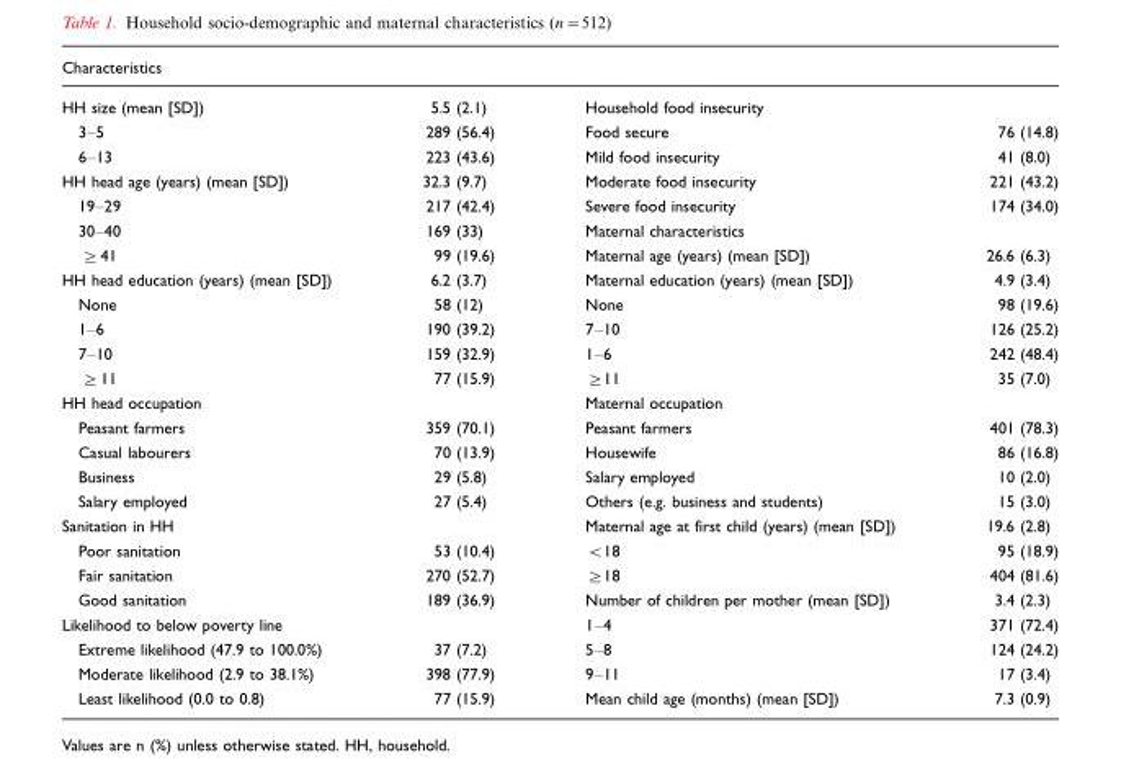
<table><thead><tr><td>Characteristics</td><td></td><td></td><td></td></tr></thead><tbody><tr><td>HH size (mean [SD])</td><td>5.5 (2.1)</td><td>Household food insecurity</td><td></td></tr><tr><td>3–5</td><td>289 (56.4)</td><td>Food secure</td><td>76 (14.8)</td></tr><tr><td>6–13</td><td>223 (43.6)</td><td>Mild food insecurity</td><td>41 (8.0)</td></tr><tr><td>HH head age (years) (mean [SD])</td><td>32.3 (9.7)</td><td>Moderate food insecurity</td><td>221 (43.2)</td></tr><tr><td>19–29</td><td>217 (42.4)</td><td>Severe food insecurity</td><td>174 (34.0)</td></tr><tr><td>30–40</td><td>169 (33)</td><td>Maternal characteristics</td><td></td></tr><tr><td>≥41</td><td>99 (19.6)</td><td>Maternal age (years) (mean [SD])</td><td>26.6 (6.3)</td></tr><tr><td>HH head education (years) (mean [SD])</td><td>6.2 (3.7)</td><td>Maternal education (years) (mean [SD])</td><td>4.9 (3.4)</td></tr><tr><td>None</td><td>58 (12)</td><td>None</td><td>98 (19.6)</td></tr><tr><td>1–6</td><td>190 (39.2)</td><td>7–10</td><td>126 (25.2)</td></tr><tr><td>7–10</td><td>159 (32.9)</td><td>1–6</td><td>242 (48.4)</td></tr><tr><td>≥11</td><td>77 (15.9)</td><td>≥11</td><td>35 (7.0)</td></tr><tr><td>HH head occupation</td><td></td><td>Maternal occupation</td><td></td></tr><tr><td>Peasant farmers</td><td>359 (70.1)</td><td>Peasant farmers</td><td>401 (78.3)</td></tr><tr><td>Casual labourers</td><td>70 (13.9)</td><td>Housewife</td><td>86 (16.8)</td></tr><tr><td>Business</td><td>29 (5.8)</td><td>Salary employed</td><td>10 (2.0)</td></tr><tr><td>Salary employed</td><td>27 (5.4)</td><td>Others (e.g. business and students)</td><td>15 (3.0)</td></tr><tr><td>Sanitation in HH</td><td></td><td>Maternal age at first child (years) (mean [SD])</td><td>19.6 (2.8)</td></tr><tr><td>Poor sanitation</td><td>53 (10.4)</td><td>&lt;18</td><td>95 (18.9)</td></tr><tr><td>Fair sanitation</td><td>270 (52.7)</td><td>≥18</td><td>404 (81.6)</td></tr><tr><td>Good sanitation</td><td>189 (36.9)</td><td>Number of children per mother (mean [SD])</td><td>3.4 (2.3)</td></tr><tr><td>Likelihood to below poverty line</td><td></td><td>1–4</td><td>371 (72.4)</td></tr><tr><td>Extreme likelihood (47.9 to 100.0%)</td><td>37 (7.2)</td><td>5–8</td><td>124 (24.2)</td></tr><tr><td>Moderate likelihood (2.9 to 38.1%)</td><td>398 (77.9)</td><td>9–11</td><td>17 (3.4)</td></tr><tr><td>Least likelihood (0.0 to 0.8)</td><td>77 (15.9)</td><td>Mean child age (months) (mean [SD])</td><td>7.3 (0.9)</td></tr></tbody></table>